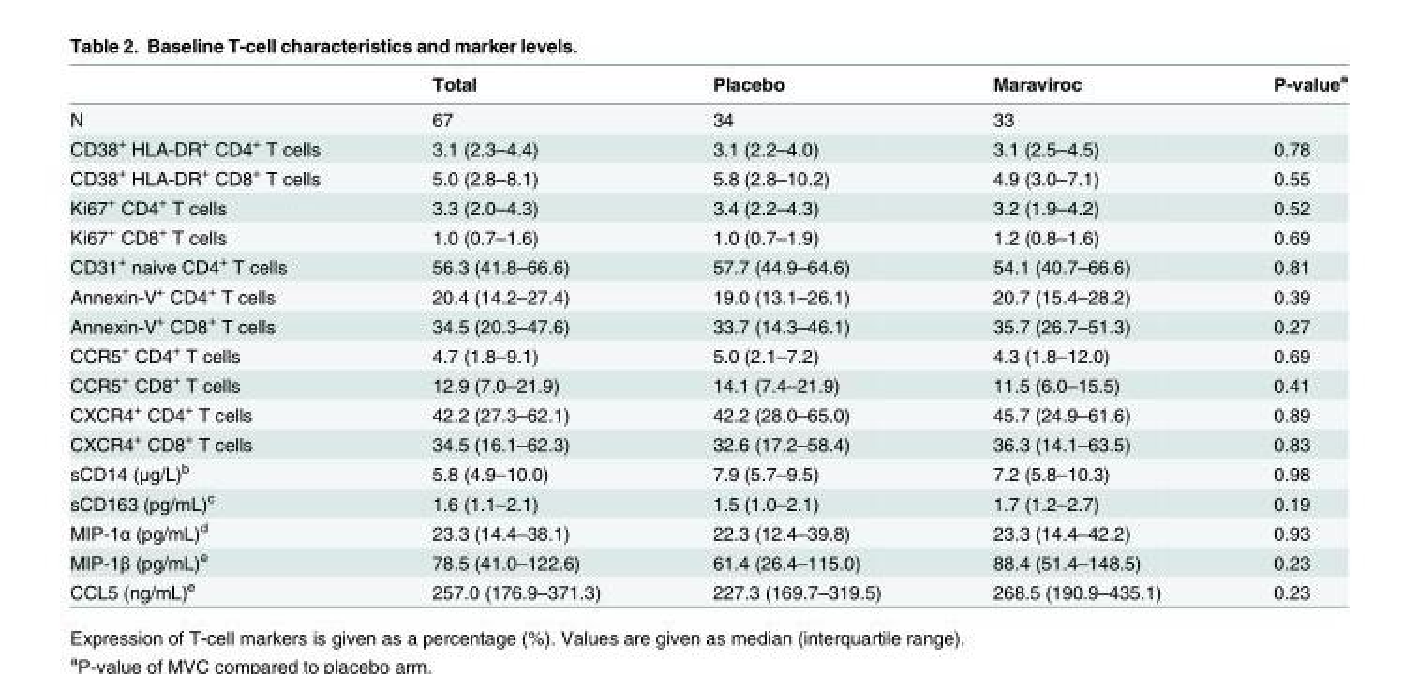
<table><thead><tr><td></td><td>Total</td><td>Placebo</td><td>Maraviroc</td><td>P-value<sup>a</sup></td></tr></thead><tbody><tr><td>N</td><td>67</td><td>34</td><td>33</td><td></td></tr><tr><td>CD38<sup>+</sup> HLA-DR<sup>+</sup> CD4<sup>+</sup> T cells</td><td>3.1 (2.3–4.4)</td><td>3.1 (2.2–4.0)</td><td>3.1 (2.5–4.5)</td><td>0.78</td></tr><tr><td>CD38<sup>+</sup> HLA-DR<sup>+</sup> CD8<sup>+</sup> T cells</td><td>5.0 (2.8–8.1)</td><td>5.8 (2.8–10.2)</td><td>4.9 (3.0–7.1)</td><td>0.55</td></tr><tr><td>Ki67<sup>+</sup> CD4<sup>+</sup> T cells</td><td>3.3 (2.0–4.3)</td><td>3.4 (2.2–4.3)</td><td>3.2 (1.9–4.2)</td><td>0.52</td></tr><tr><td>Ki67<sup>+</sup> CD8<sup>+</sup> T cells</td><td>1.0 (0.7–1.6)</td><td>1.0 (0.7–1.9)</td><td>1.2 (0.8–1.6)</td><td>0.69</td></tr><tr><td>CD31<sup>+</sup> naive CD4<sup>+</sup> T cells</td><td>56.3 (41.8–66.6)</td><td>57.7 (44.9–64.6)</td><td>54.1 (40.7–66.6)</td><td>0.81</td></tr><tr><td>Annexin-V<sup>+</sup> CD4<sup>+</sup> T cells</td><td>20.4 (14.2–27.4)</td><td>19.0 (13.1–26.1)</td><td>20.7 (15.4–28.2)</td><td>0.39</td></tr><tr><td>Annexin-V<sup>+</sup> CD8<sup>+</sup> T cells</td><td>34.5 (20.3–47.6)</td><td>33.7 (14.3–46.1)</td><td>35.7 (26.7–51.3)</td><td>0.27</td></tr><tr><td>CCR5<sup>+</sup> CD4<sup>+</sup> T cells</td><td>4.7 (1.8–9.1)</td><td>5.0 (2.1–7.2)</td><td>4.3 (1.8–12.0)</td><td>0.69</td></tr><tr><td>CCR5<sup>+</sup> CD8<sup>+</sup> T cells</td><td>12.9 (7.0–21.9)</td><td>14.1 (7.4–21.9)</td><td>11.5 (6.0–15.5)</td><td>0.41</td></tr><tr><td>CXCR4<sup>+</sup> CD4<sup>+</sup> T cells</td><td>42.2 (27.3–62.1)</td><td>42.2 (28.0–65.0)</td><td>45.7 (24.9–61.6)</td><td>0.89</td></tr><tr><td>CXCR4<sup>+</sup> CD8<sup>+</sup> T cells</td><td>34.5 (16.1–62.3)</td><td>32.6 (17.2–58.4)</td><td>36.3 (14.1–63.5)</td><td>0.83</td></tr><tr><td>sCD14 (μg/L)<sup>b</sup></td><td>5.8 (4.9–10.0)</td><td>7.9 (5.7–9.5)</td><td>7.2 (5.8–10.3)</td><td>0.98</td></tr><tr><td>sCD163 (pg/mL)<sup>c</sup></td><td>1.6 (1.1–2.1)</td><td>1.5 (1.0–2.1)</td><td>1.7 (1.2–2.7)</td><td>0.19</td></tr><tr><td>MIP-1α (pg/mL)<sup>d</sup></td><td>23.3 (14.4–38.1)</td><td>22.3 (12.4–39.8)</td><td>23.3 (14.4–42.2)</td><td>0.93</td></tr><tr><td>MIP-1β (pg/mL)<sup>e</sup></td><td>78.5 (41.0–122.6)</td><td>61.4 (26.4–115.0)</td><td>88.4 (51.4–148.5)</td><td>0.23</td></tr><tr><td>CCL5 (ng/mL)<sup>e</sup></td><td>257.0 (176.9–371.3)</td><td>227.3 (169.7–319.5)</td><td>268.5 (190.9–435.1)</td><td>0.23</td></tr></tbody></table>